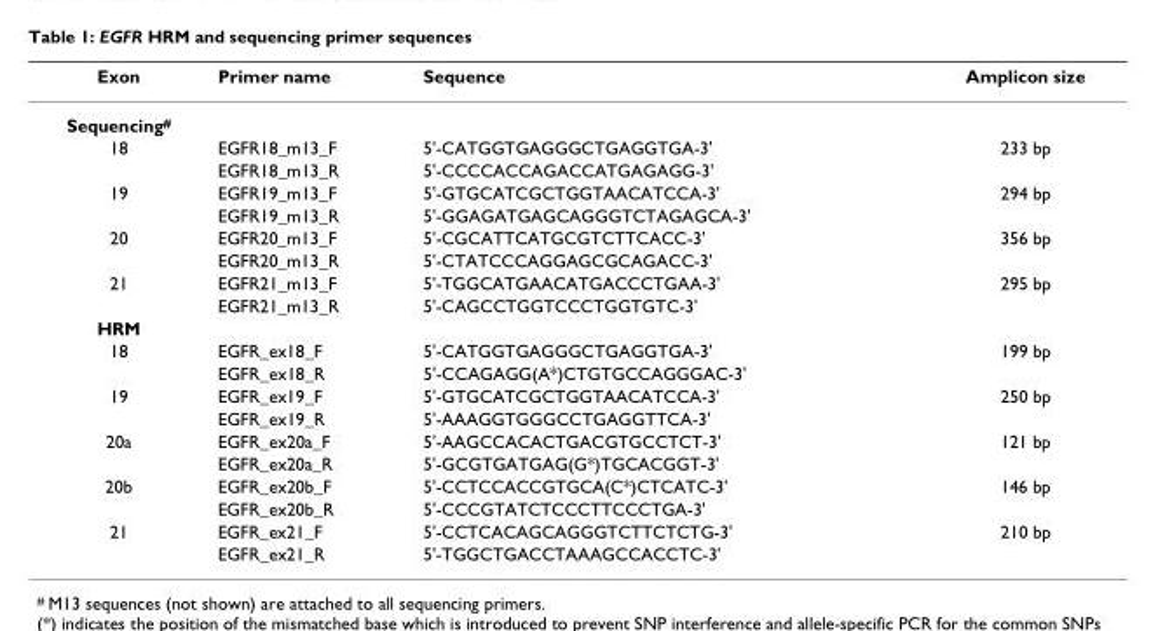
<table><thead><tr><td>Exon</td><td>Primer name</td><td>Sequence</td><td>Amplicon size</td></tr></thead><tbody><tr><td colspan="4">Sequencing<sup>#</sup></td></tr><tr><td rowspan="2">18</td><td>EGFR18_m13_F</td><td>5&#x27;-CATGGTGAGGGCTGAGGTGA-3&#x27;</td><td>233 bp</td></tr><tr><td>EGFR18_m13_R</td><td>5&#x27;-CCCCACCAGACCATGAGAGG-3&#x27;</td><td></td></tr><tr><td rowspan="2">19</td><td>EGFR19_m13_F</td><td>5&#x27;-GTGCATCGCTGGTAACATCCA-3&#x27;</td><td>294 bp</td></tr><tr><td>EGFR19_m13_R</td><td>5&#x27;-GGAGATGAGCAGGGTCTAGAGCA-3&#x27;</td><td></td></tr><tr><td rowspan="2">20</td><td>EGFR20_m13_F</td><td>5&#x27;-CGCATTCATGCGTCTTCACC-3&#x27;</td><td>356 bp</td></tr><tr><td>EGFR20_m13_R</td><td>5&#x27;-CTATCCCAGGAGCGCAGACC-3&#x27;</td><td></td></tr><tr><td rowspan="2">21</td><td>EGFR21_m13_F</td><td>5&#x27;-TGGCATGAACATGACCCTGAA-3&#x27;</td><td>295 bp</td></tr><tr><td>EGFR21_m13_R</td><td>5&#x27;-CAGCCTGGTCCCTGGTGTC-3&#x27;</td><td></td></tr><tr><td colspan="4">HRM</td></tr><tr><td rowspan="2">18</td><td>EGFR_ex18_F</td><td>5&#x27;-CATGGTGAGGGCTGAGGTGA-3&#x27;</td><td>199 bp</td></tr><tr><td>EGFR_ex18_R</td><td>5&#x27;-CCAGAGG(A*)CTGTGCCAGGGAC-3&#x27;</td><td></td></tr><tr><td rowspan="2">19</td><td>EGFR_ex19_F</td><td>5&#x27;-GTGCATCGCTGGTAACATCCA-3&#x27;</td><td>250 bp</td></tr><tr><td>EGFR_ex19_R</td><td>5&#x27;-AAAGGTGGGCCTGAGGTTCA-3&#x27;</td><td></td></tr><tr><td rowspan="2">20a</td><td>EGFR_ex20a_F</td><td>5&#x27;-AAGCCACACTGACGTGCCTCT-3&#x27;</td><td>121 bp</td></tr><tr><td>EGFR_ex20a_R</td><td>5&#x27;-GCGTGATGAG(G*)TGCACGGT-3&#x27;</td><td></td></tr><tr><td rowspan="2">20b</td><td>EGFR_ex20b_F</td><td>5&#x27;-CCTCCACCGTGCA(C*)CTCATC-3&#x27;</td><td>146 bp</td></tr><tr><td>EGFR_ex20b_R</td><td>5&#x27;-CCCGTATCTCCCTTCCCTGA-3&#x27;</td><td></td></tr><tr><td rowspan="2">21</td><td>EGFR_ex21_F</td><td>5&#x27;-CCTCACAGCAGGGTCTTCTCTG-3&#x27;</td><td>210 bp</td></tr><tr><td>EGFR_ex21_R</td><td>5&#x27;-TGGCTGACCTAAAGCCACCTC-3&#x27;</td><td></td></tr></tbody></table>